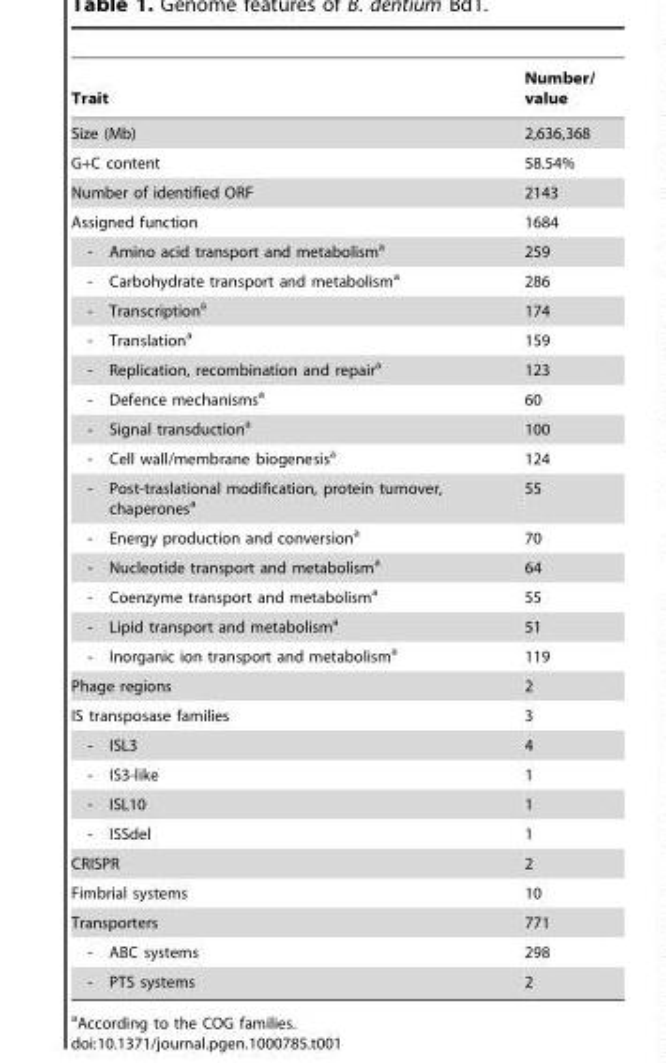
<table><thead><tr><td>Trait</td><td>Number/ value</td></tr></thead><tbody><tr><td>Size (Mb)</td><td>2,636,368</td></tr><tr><td>G+C content</td><td>58.54%</td></tr><tr><td>Number of identified ORF</td><td>2143</td></tr><tr><td>Assigned function</td><td>1684</td></tr><tr><td>- Amino acid transport and metabolism<sup>a</sup></td><td>259</td></tr><tr><td>- Carbohydrate transport and metabolism<sup>a</sup></td><td>286</td></tr><tr><td>- Transcription<sup>a</sup></td><td>174</td></tr><tr><td>- Translation<sup>a</sup></td><td>159</td></tr><tr><td>- Replication, recombination and repair<sup>a</sup></td><td>123</td></tr><tr><td>- Defence mechanisms<sup>a</sup></td><td>60</td></tr><tr><td>- Signal transduction<sup>a</sup></td><td>100</td></tr><tr><td>- Cell wall/membrane biogenesis<sup>a</sup></td><td>124</td></tr><tr><td>- Post-traslational modification, protein turnover, chaperones<sup>a</sup></td><td>55</td></tr><tr><td>- Energy production and conversion<sup>a</sup></td><td>70</td></tr><tr><td>- Nucleotide transport and metabolism<sup>a</sup></td><td>64</td></tr><tr><td>- Coenzyme transport and metabolism<sup>a</sup></td><td>55</td></tr><tr><td>- Lipid transport and metabolism<sup>a</sup></td><td>51</td></tr><tr><td>- Inorganic ion transport and metabolism<sup>a</sup></td><td>119</td></tr><tr><td>Phage regions</td><td>2</td></tr><tr><td>IS transposase families</td><td>3</td></tr><tr><td>- ISL3</td><td>4</td></tr><tr><td>- IS3-like</td><td>1</td></tr><tr><td>- ISL10</td><td>1</td></tr><tr><td>- ISSdel</td><td>1</td></tr><tr><td>CRISPR</td><td>2</td></tr><tr><td>Fimbrial systems</td><td>10</td></tr><tr><td>Transporters</td><td>771</td></tr><tr><td>- ABC systems</td><td>298</td></tr><tr><td>- PTS systems</td><td>2</td></tr></tbody></table>